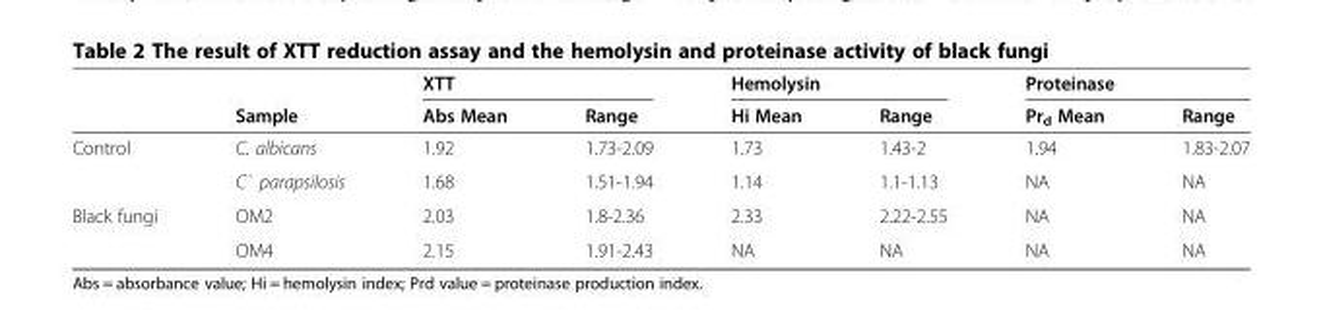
<table><thead><tr><td rowspan="2"></td><td rowspan="2">Sample</td><td colspan="2">XTT</td><td colspan="2">Hemolysin</td><td colspan="2">Proteinase</td></tr><tr><td>Abs Mean</td><td>Range</td><td>Hi Mean</td><td>Range</td><td>Pr<sub>d</sub> Mean</td><td>Range</td></tr></thead><tbody><tr><td rowspan="2">Control</td><td>C. albicans</td><td>1.92</td><td>1.73-2.09</td><td>1.73</td><td>1.43-2</td><td>1.94</td><td>1.83-2.07</td></tr><tr><td>C` parapsilosis</td><td>1.68</td><td>1.51-1.94</td><td>1.14</td><td>1.1-1.13</td><td>NA</td><td>NA</td></tr><tr><td rowspan="2">Black fungi</td><td>OM2</td><td>2.03</td><td>1.8-2.36</td><td>2.33</td><td>2.22-2.55</td><td>NA</td><td>NA</td></tr><tr><td>OM4</td><td>2.15</td><td>1.91-2.43</td><td>NA</td><td>NA</td><td>NA</td><td>NA</td></tr></tbody></table>